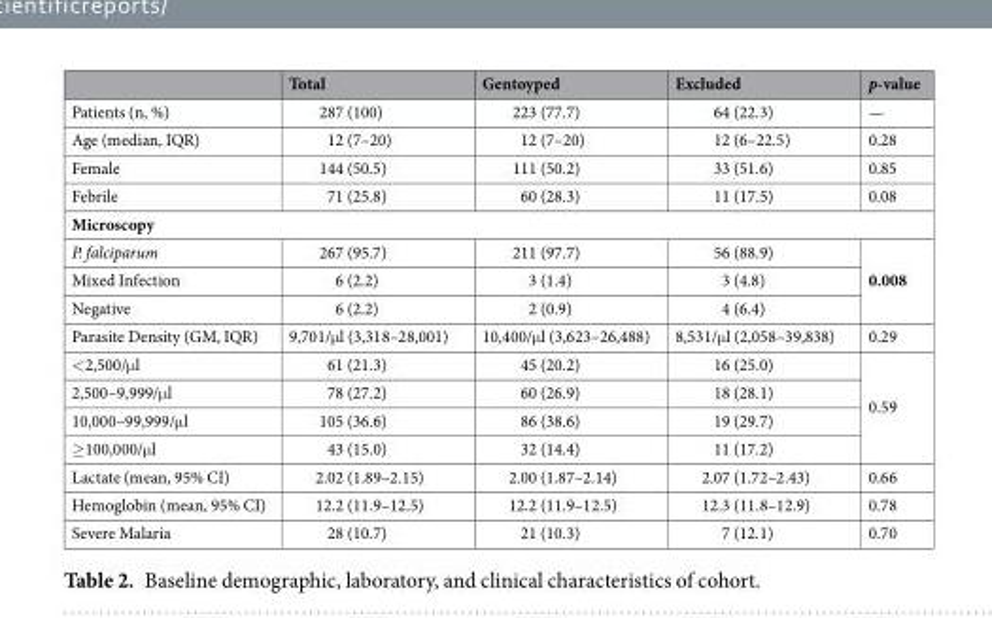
<table><thead><tr><td></td><td>Total</td><td>Gentoyped</td><td>Excluded</td><td>p-value</td></tr></thead><tbody><tr><td>Patients (n, %)</td><td>287 (100)</td><td>223 (77.7)</td><td>64 (22.3)</td><td>—</td></tr><tr><td>Age (median, IQR)</td><td>12 (7–20)</td><td>12 (7–20)</td><td>12 (6–22.5)</td><td>0.28</td></tr><tr><td>Female</td><td>144 (50.5)</td><td>111 (50.2)</td><td>33 (51.6)</td><td>0.85</td></tr><tr><td>Febrile</td><td>71 (25.8)</td><td>60 (28.3)</td><td>11 (17.5)</td><td>0.08</td></tr><tr><td colspan="5">Microscopy</td></tr><tr><td>P. falciparum</td><td>267 (95.7)</td><td>211 (97.7)</td><td>56 (88.9)</td><td rowspan="3">0.008</td></tr><tr><td>Mixed Infection</td><td>6 (2.2)</td><td>3 (1.4)</td><td>3 (4.8)</td></tr><tr><td>Negative</td><td>6 (2.2)</td><td>2 (0.9)</td><td>4 (6.4)</td></tr><tr><td>Parasite Density (GM, IQR)</td><td>9,701/μl (3,318–28,001)</td><td>10,400/μl (3,623–26,488)</td><td>8,531/μl (2,058–39,838)</td><td>0.29</td></tr><tr><td>&lt;2,500/μl</td><td>61 (21.3)</td><td>45 (20.2)</td><td>16 (25.0)</td><td rowspan="4">0.59</td></tr><tr><td>2,500–9,999/μl</td><td>78 (27.2)</td><td>60 (26.9)</td><td>18 (28.1)</td></tr><tr><td>10,000–99,999/μl</td><td>105 (36.6)</td><td>86 (38.6)</td><td>19 (29.7)</td></tr><tr><td>≥100,000/μl</td><td>43 (15.0)</td><td>32 (14.4)</td><td>11 (17.2)</td></tr><tr><td>Lactate (mean, 95% CI)</td><td>2.02 (1.89–2.15)</td><td>2.00 (1.87–2.14)</td><td>2.07 (1.72–2.43)</td><td>0.66</td></tr><tr><td>Hemoglobin (mean, 95% CI)</td><td>12.2 (11.9–12.5)</td><td>12.2 (11.9–12.5)</td><td>12.3 (11.8–12.9)</td><td>0.78</td></tr><tr><td>Severe Malaria</td><td>28 (10.7)</td><td>21 (10.3)</td><td>7 (12.1)</td><td>0.70</td></tr></tbody></table>